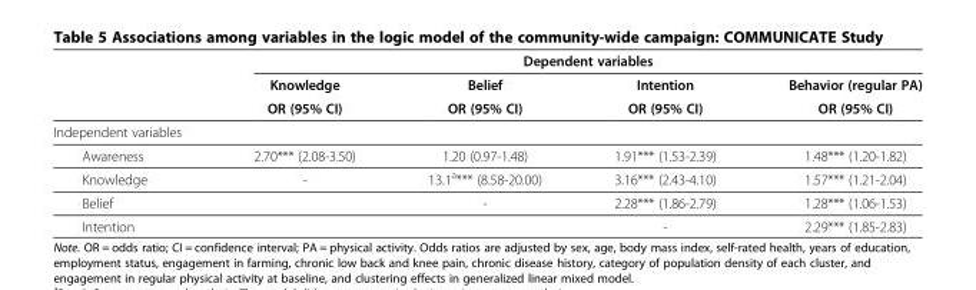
<table><thead><tr><td rowspan="3"></td><td colspan="4">Dependent variables</td></tr><tr><td rowspan="2">Knowledge OR (95% CI)</td><td rowspan="2">Belief OR (95% CI)</td><td rowspan="2">Intention OR (95% CI)</td><td rowspan="2">Behavior (regular PA) OR (95% CI)</td></tr><tr></tr></thead><tbody><tr><td colspan="5">Independent variables</td></tr><tr><td>Awareness</td><td>2.70*** (2.08-3.50)</td><td>1.20 (0.97-1.48)</td><td>1.91*** (1.53-2.39)</td><td>1.48*** (1.20-1.82)</td></tr><tr><td>Knowledge</td><td>-</td><td>13.1<sup>a</sup>*** (8.58-20.00)</td><td>3.16*** (2.43-4.10)</td><td>1.57*** (1.21-2.04)</td></tr><tr><td>Belief</td><td></td><td>-</td><td>2.28*** (1.86-2.79)</td><td>1.28*** (1.06-1.53)</td></tr><tr><td>Intention</td><td></td><td></td><td>-</td><td>2.29*** (1.85-2.83)</td></tr></tbody></table>